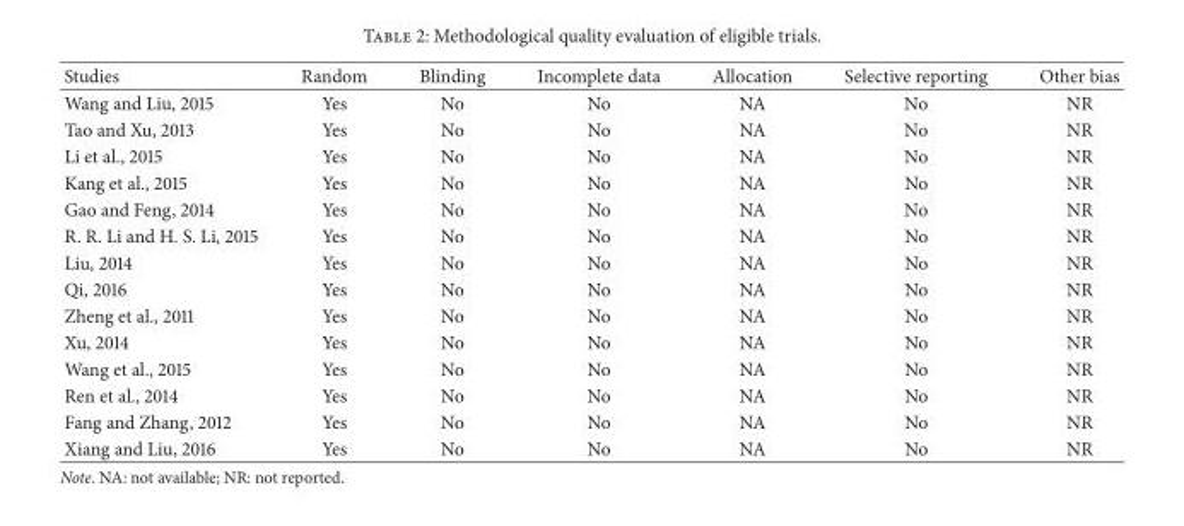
<table><thead><tr><td>Studies</td><td>Random</td><td>Blinding</td><td>Incomplete data</td><td>Allocation</td><td>Selective reporting</td><td>Other bias</td></tr></thead><tbody><tr><td>Wang and Liu, 2015</td><td>Yes</td><td>No</td><td>No</td><td>NA</td><td>No</td><td>NR</td></tr><tr><td>Tao and Xu, 2013</td><td>Yes</td><td>No</td><td>No</td><td>NA</td><td>No</td><td>NR</td></tr><tr><td>Li et al., 2015</td><td>Yes</td><td>No</td><td>No</td><td>NA</td><td>No</td><td>NR</td></tr><tr><td>Kang et al., 2015</td><td>Yes</td><td>No</td><td>No</td><td>NA</td><td>No</td><td>NR</td></tr><tr><td>Gao and Feng, 2014</td><td>Yes</td><td>No</td><td>No</td><td>NA</td><td>No</td><td>NR</td></tr><tr><td>R. R. Li and H. S. Li, 2015</td><td>Yes</td><td>No</td><td>No</td><td>NA</td><td>No</td><td>NR</td></tr><tr><td>Liu, 2014</td><td>Yes</td><td>No</td><td>No</td><td>NA</td><td>No</td><td>NR</td></tr><tr><td>Qi, 2016</td><td>Yes</td><td>No</td><td>No</td><td>NA</td><td>No</td><td>NR</td></tr><tr><td>Zheng et al., 2011</td><td>Yes</td><td>No</td><td>No</td><td>NA</td><td>No</td><td>NR</td></tr><tr><td>Xu, 2014</td><td>Yes</td><td>No</td><td>No</td><td>NA</td><td>No</td><td>NR</td></tr><tr><td>Wang et al., 2015</td><td>Yes</td><td>No</td><td>No</td><td>NA</td><td>No</td><td>NR</td></tr><tr><td>Ren et al., 2014</td><td>Yes</td><td>No</td><td>No</td><td>NA</td><td>No</td><td>NR</td></tr><tr><td>Fang and Zhang, 2012</td><td>Yes</td><td>No</td><td>No</td><td>NA</td><td>No</td><td>NR</td></tr><tr><td>Xiang and Liu, 2016</td><td>Yes</td><td>No</td><td>No</td><td>NA</td><td>No</td><td>NR</td></tr></tbody></table>